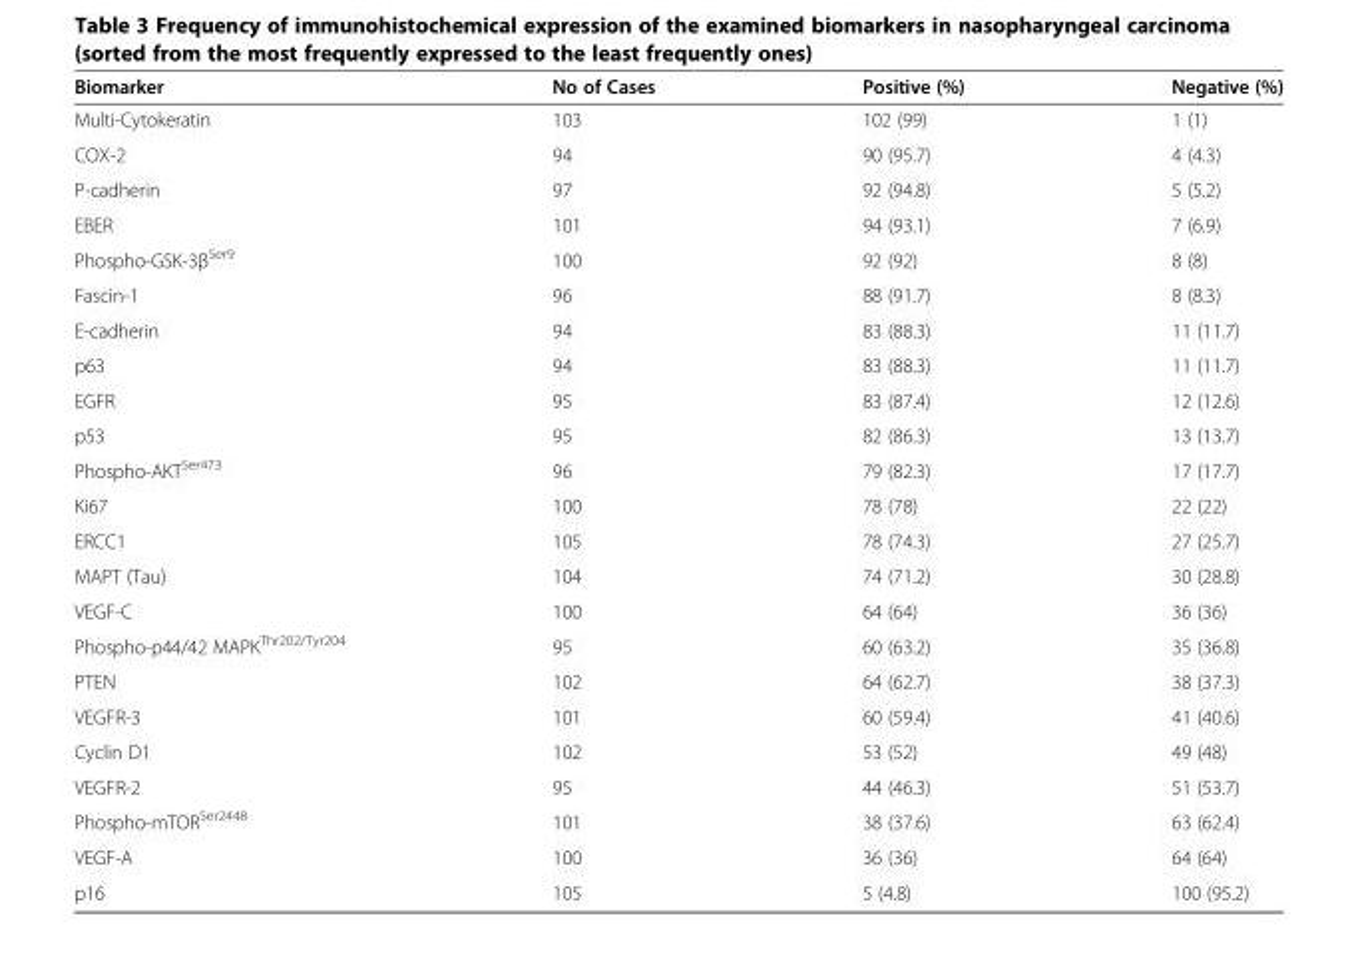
<table><thead><tr><td>Biomarker</td><td>No of Cases</td><td>Positive (%)</td><td>Negative (%)</td></tr></thead><tbody><tr><td>Multi-Cytokeratin</td><td>103</td><td>102 (99)</td><td>1 (1)</td></tr><tr><td>COX-2</td><td>94</td><td>90 (95.7)</td><td>4 (4.3)</td></tr><tr><td>P-cadherin</td><td>97</td><td>92 (94.8)</td><td>5 (5.2)</td></tr><tr><td>EBER</td><td>101</td><td>94 (93.1)</td><td>7 (6.9)</td></tr><tr><td>Phospho-GSK-3β<sup>Ser9</sup></td><td>100</td><td>92 (92)</td><td>8 (8)</td></tr><tr><td>Fascin-1</td><td>96</td><td>88 (91.7)</td><td>8 (8.3)</td></tr><tr><td>E-cadherin</td><td>94</td><td>83 (88.3)</td><td>11 (11.7)</td></tr><tr><td>p63</td><td>94</td><td>83 (88.3)</td><td>11 (11.7)</td></tr><tr><td>EGFR</td><td>95</td><td>83 (87.4)</td><td>12 (12.6)</td></tr><tr><td>p53</td><td>95</td><td>82 (86.3)</td><td>13 (13.7)</td></tr><tr><td>Phospho-AKT<sup>Ser473</sup></td><td>96</td><td>79 (82.3)</td><td>17 (17.7)</td></tr><tr><td>Ki67</td><td>100</td><td>78 (78)</td><td>22 (22)</td></tr><tr><td>ERCC1</td><td>105</td><td>78 (74.3)</td><td>27 (25.7)</td></tr><tr><td>MAPT (Tau)</td><td>104</td><td>74 (71.2)</td><td>30 (28.8)</td></tr><tr><td>VEGF-C</td><td>100</td><td>64 (64)</td><td>36 (36)</td></tr><tr><td>Phospho-p44/42 MAPK<sup>Thr202/Tyr204</sup></td><td>95</td><td>60 (63.2)</td><td>35 (36.8)</td></tr><tr><td>PTEN</td><td>102</td><td>64 (62.7)</td><td>38 (37.3)</td></tr><tr><td>VEGFR-3</td><td>101</td><td>60 (59.4)</td><td>41 (40.6)</td></tr><tr><td>Cyclin D1</td><td>102</td><td>53 (52)</td><td>49 (48)</td></tr><tr><td>VEGFR-2</td><td>95</td><td>44 (46.3)</td><td>51 (53.7)</td></tr><tr><td>Phospho-mTOR<sup>Ser2448</sup></td><td>101</td><td>38 (37.6)</td><td>63 (62.4)</td></tr><tr><td>VEGF-A</td><td>100</td><td>36 (36)</td><td>64 (64)</td></tr><tr><td>p16</td><td>105</td><td>5 (4.8)</td><td>100 (95.2)</td></tr></tbody></table>